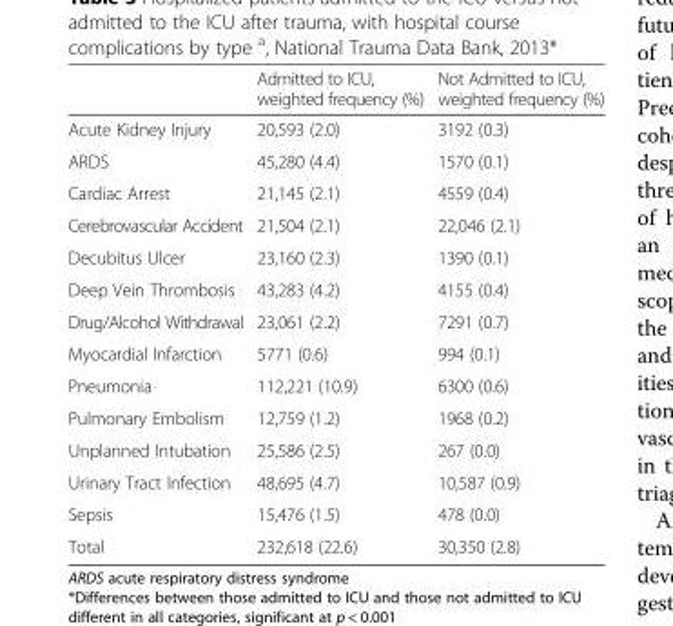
<table><thead><tr><td></td><td>Admitted to ICU, weighted frequency (%)</td><td>Not Admitted to ICU, weighted frequency (%)</td></tr></thead><tbody><tr><td>Acute Kidney Injury</td><td>20,593 (2.0)</td><td>3192 (0.3)</td></tr><tr><td>ARDS</td><td>45,280 (4.4)</td><td>1570 (0.1)</td></tr><tr><td>Cardiac Arrest</td><td>21,145 (2.1)</td><td>4559 (0.4)</td></tr><tr><td>Cerebrovascular Accident</td><td>21,504 (2.1)</td><td>22,046 (2.1)</td></tr><tr><td>Decubitus Ulcer</td><td>23,160 (2.3)</td><td>1390 (0.1)</td></tr><tr><td>Deep Vein Thrombosis</td><td>43,283 (4.2)</td><td>4155 (0.4)</td></tr><tr><td>Drug/Alcohol Withdrawal</td><td>23,061 (2.2)</td><td>7291 (0.7)</td></tr><tr><td>Myocardial Infarction</td><td>5771 (0.6)</td><td>994 (0.1)</td></tr><tr><td>Pneumonia</td><td>112,221 (10.9)</td><td>6300 (0.6)</td></tr><tr><td>Pulmonary Embolism</td><td>12,759 (1.2)</td><td>1968 (0.2)</td></tr><tr><td>Unplanned Intubation</td><td>25,586 (2.5)</td><td>267 (0.0)</td></tr><tr><td>Urinary Tract Infection</td><td>48,695 (4.7)</td><td>10,587 (0.9)</td></tr><tr><td>Sepsis</td><td>15,476 (1.5)</td><td>478 (0.0)</td></tr><tr><td>Total</td><td>232,618 (22.6)</td><td>30,350 (2.8)</td></tr></tbody></table>